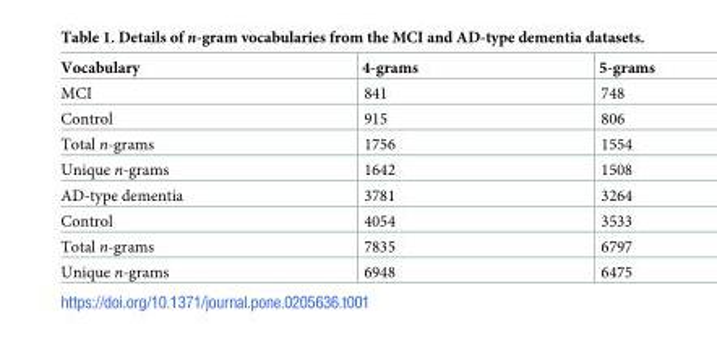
<table><thead><tr><td>Vocabulary</td><td>4-grams</td><td>5-grams</td></tr></thead><tbody><tr><td>MCI</td><td>841</td><td>748</td></tr><tr><td>Control</td><td>915</td><td>806</td></tr><tr><td>Total n-grams</td><td>1756</td><td>1554</td></tr><tr><td>Unique n-grams</td><td>1642</td><td>1508</td></tr><tr><td>AD-type dementia</td><td>3781</td><td>3264</td></tr><tr><td>Control</td><td>4054</td><td>3533</td></tr><tr><td>Total n-grams</td><td>7835</td><td>6797</td></tr><tr><td>Unique n-grams</td><td>6948</td><td>6475</td></tr></tbody></table>